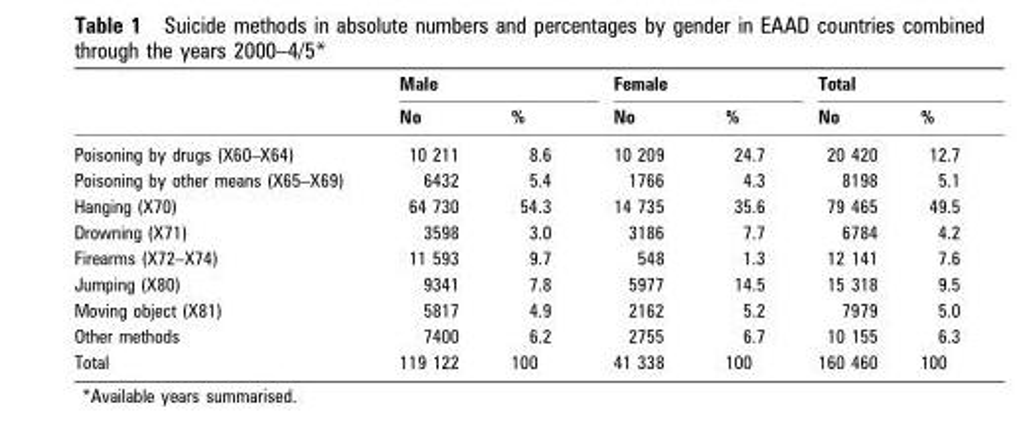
<table><thead><tr><td rowspan="2"></td><td colspan="2">Male</td><td colspan="2">Female</td><td colspan="2">Total</td></tr><tr><td>No</td><td>%</td><td>No</td><td>%</td><td>No</td><td>%</td></tr></thead><tbody><tr><td>Poisoning by drugs (X60–X64)</td><td>10 211</td><td>8.6</td><td>10 209</td><td>24.7</td><td>20 420</td><td>12.7</td></tr><tr><td>Poisoning by other means (X65–X69)</td><td>6432</td><td>5.4</td><td>1766</td><td>4.3</td><td>8198</td><td>5.1</td></tr><tr><td>Hanging (X70)</td><td>64 730</td><td>54.3</td><td>14 735</td><td>35.6</td><td>79 465</td><td>49.5</td></tr><tr><td>Drowning (X71)</td><td>3598</td><td>3.0</td><td>3186</td><td>7.7</td><td>6784</td><td>4.2</td></tr><tr><td>Firearms (X72–X74)</td><td>11 593</td><td>9.7</td><td>548</td><td>1.3</td><td>12 141</td><td>7.6</td></tr><tr><td>Jumping (X80)</td><td>9341</td><td>7.8</td><td>5977</td><td>14.5</td><td>15 318</td><td>9.5</td></tr><tr><td>Moving object (X81)</td><td>5817</td><td>4.9</td><td>2162</td><td>5.2</td><td>7979</td><td>5.0</td></tr><tr><td>Other methods</td><td>7400</td><td>6.2</td><td>2755</td><td>6.7</td><td>10 155</td><td>6.3</td></tr><tr><td>Total</td><td>119 122</td><td>100</td><td>41 338</td><td>100</td><td>160 460</td><td>100</td></tr></tbody></table>